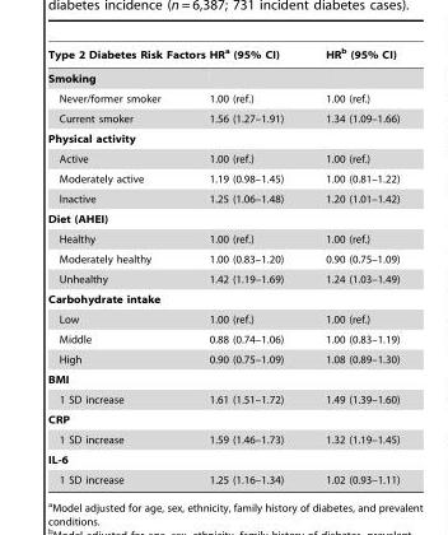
<table><thead><tr><td>Type 2 Diabetes Risk Factors</td><td>HR<sup>a</sup> (95% CI)</td><td>HR<sup>b</sup> (95% CI)</td></tr></thead><tbody><tr><td colspan="3">Smoking</td></tr><tr><td>Never/former smoker</td><td>1.00 (ref.)</td><td>1.00 (ref.)</td></tr><tr><td>Current smoker</td><td>1.56 (1.27–1.91)</td><td>1.34 (1.09–1.66)</td></tr><tr><td colspan="3">Physical activity</td></tr><tr><td>Active</td><td>1.00 (ref.)</td><td>1.00 (ref.)</td></tr><tr><td>Moderately active</td><td>1.19 (0.98–1.45)</td><td>1.00 (0.81–1.22)</td></tr><tr><td>Inactive</td><td>1.25 (1.06–1.48)</td><td>1.20 (1.01–1.42)</td></tr><tr><td colspan="3">Diet (AHEI)</td></tr><tr><td>Healthy</td><td>1.00 (ref.)</td><td>1.00 (ref.)</td></tr><tr><td>Moderately healthy</td><td>1.00 (0.83–1.20)</td><td>0.90 (0.75–1.09)</td></tr><tr><td>Unhealthy</td><td>1.42 (1.19–1.69)</td><td>1.24 (1.03–1.49)</td></tr><tr><td colspan="3">Carbohydrate intake</td></tr><tr><td>Low</td><td>1.00 (ref.)</td><td>1.00 (ref.)</td></tr><tr><td>Middle</td><td>0.88 (0.74–1.06)</td><td>1.00 (0.83–1.19)</td></tr><tr><td>High</td><td>0.90 (0.75–1.09)</td><td>1.08 (0.89–1.30)</td></tr><tr><td colspan="3">BMI</td></tr><tr><td>1 SD increase</td><td>1.61 (1.51–1.72)</td><td>1.49 (1.39–1.60)</td></tr><tr><td colspan="3">CRP</td></tr><tr><td>1 SD increase</td><td>1.59 (1.46–1.73)</td><td>1.32 (1.19–1.45)</td></tr><tr><td colspan="3">IL-6</td></tr><tr><td>1 SD increase</td><td>1.25 (1.16–1.34)</td><td>1.02 (0.93–1.11)</td></tr></tbody></table>